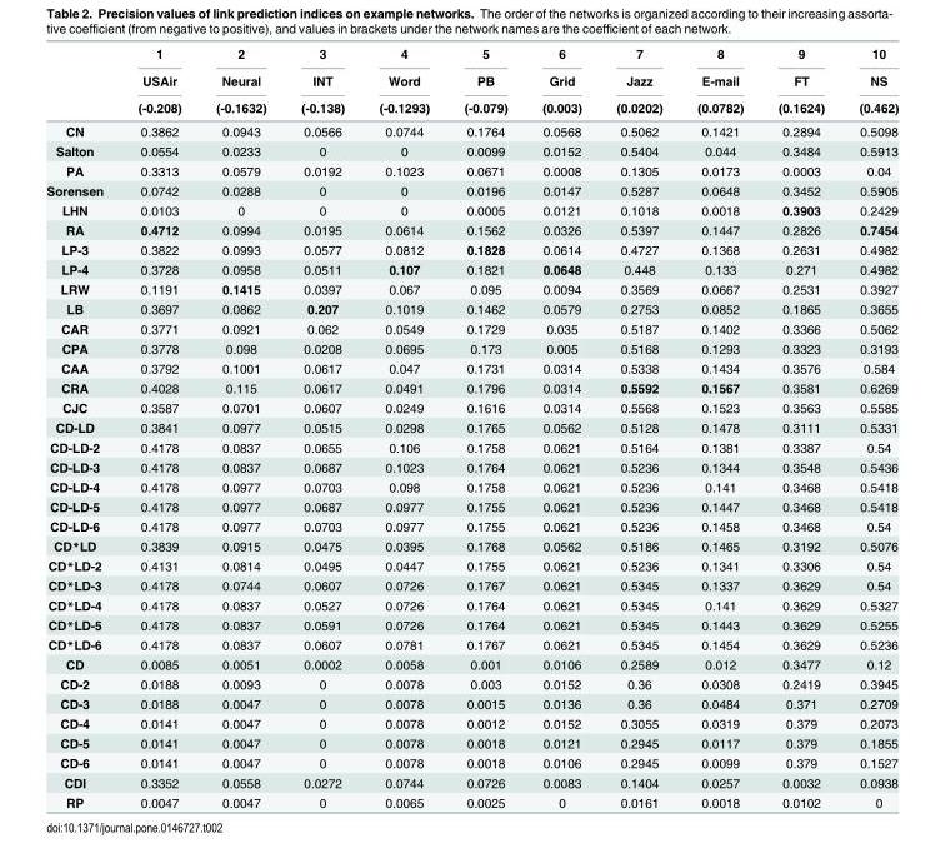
<table><thead><tr><td rowspan="3"></td><td rowspan="3">1 USAir (-0.208)</td><td rowspan="3">2 Neural (-0.1632)</td><td rowspan="3">3 INT (-0.138)</td><td rowspan="3">4 Word (-0.1293)</td><td rowspan="3">5 PB (-0.079)</td><td rowspan="3">6 Grid (0.003)</td><td rowspan="3">7 Jazz (0.0202)</td><td rowspan="3">8 E-mail (0.0782)</td><td rowspan="3">9 FT (0.1624)</td><td rowspan="3">10 NS (0.462)</td></tr><tr></tr><tr></tr></thead><tbody><tr><td>CN</td><td>0.3862</td><td>0.0943</td><td>0.0566</td><td>0.0744</td><td>0.1764</td><td>0.0568</td><td>0.5062</td><td>0.1421</td><td>0.2894</td><td>0.5098</td></tr><tr><td>Salton</td><td>0.0554</td><td>0.0233</td><td>0</td><td>0</td><td>0.0099</td><td>0.0152</td><td>0.5404</td><td>0.044</td><td>0.3484</td><td>0.5913</td></tr><tr><td>PA</td><td>0.3313</td><td>0.0579</td><td>0.0192</td><td>0.1023</td><td>0.0671</td><td>0.0008</td><td>0.1305</td><td>0.0173</td><td>0.0003</td><td>0.04</td></tr><tr><td>Sorensen</td><td>0.0742</td><td>0.0288</td><td>0</td><td>0</td><td>0.0196</td><td>0.0147</td><td>0.5287</td><td>0.0648</td><td>0.3452</td><td>0.5905</td></tr><tr><td>LHN</td><td>0.0103</td><td>0</td><td>0</td><td>0</td><td>0.0005</td><td>0.0121</td><td>0.1018</td><td>0.0018</td><td>0.3903</td><td>0.2429</td></tr><tr><td>RA</td><td>0.4712</td><td>0.0994</td><td>0.0195</td><td>0.0614</td><td>0.1562</td><td>0.0326</td><td>0.5397</td><td>0.1447</td><td>0.2826</td><td>0.7454</td></tr><tr><td>LP-3</td><td>0.3822</td><td>0.0993</td><td>0.0577</td><td>0.0812</td><td>0.1828</td><td>0.0614</td><td>0.4727</td><td>0.1368</td><td>0.2631</td><td>0.4982</td></tr><tr><td>LP-4</td><td>0.3728</td><td>0.0958</td><td>0.0511</td><td>0.107</td><td>0.1821</td><td>0.0648</td><td>0.448</td><td>0.133</td><td>0.271</td><td>0.4982</td></tr><tr><td>LRW</td><td>0.1191</td><td>0.1415</td><td>0.0397</td><td>0.067</td><td>0.095</td><td>0.0094</td><td>0.3569</td><td>0.0667</td><td>0.2531</td><td>0.3927</td></tr><tr><td>LB</td><td>0.3697</td><td>0.0862</td><td>0.207</td><td>0.1019</td><td>0.1462</td><td>0.0579</td><td>0.2753</td><td>0.0852</td><td>0.1865</td><td>0.3655</td></tr><tr><td>CAR</td><td>0.3771</td><td>0.0921</td><td>0.062</td><td>0.0549</td><td>0.1729</td><td>0.035</td><td>0.5187</td><td>0.1402</td><td>0.3366</td><td>0.5062</td></tr><tr><td>CPA</td><td>0.3778</td><td>0.098</td><td>0.0208</td><td>0.0695</td><td>0.173</td><td>0.005</td><td>0.5168</td><td>0.1293</td><td>0.3323</td><td>0.3193</td></tr><tr><td>CAA</td><td>0.3792</td><td>0.1001</td><td>0.0617</td><td>0.047</td><td>0.1731</td><td>0.0314</td><td>0.5338</td><td>0.1434</td><td>0.3576</td><td>0.584</td></tr><tr><td>CRA</td><td>0.4028</td><td>0.115</td><td>0.0617</td><td>0.0491</td><td>0.1796</td><td>0.0314</td><td>0.5592</td><td>0.1567</td><td>0.3581</td><td>0.6269</td></tr><tr><td>CJC</td><td>0.3587</td><td>0.0701</td><td>0.0607</td><td>0.0249</td><td>0.1616</td><td>0.0314</td><td>0.5568</td><td>0.1523</td><td>0.3563</td><td>0.5585</td></tr><tr><td>CD-LD</td><td>0.3841</td><td>0.0977</td><td>0.0515</td><td>0.0298</td><td>0.1765</td><td>0.0562</td><td>0.5128</td><td>0.1478</td><td>0.3111</td><td>0.5331</td></tr><tr><td>CD-LD-2</td><td>0.4178</td><td>0.0837</td><td>0.0655</td><td>0.106</td><td>0.1758</td><td>0.0621</td><td>0.5164</td><td>0.1381</td><td>0.3387</td><td>0.54</td></tr><tr><td>CD-LD-3</td><td>0.4178</td><td>0.0837</td><td>0.0687</td><td>0.1023</td><td>0.1764</td><td>0.0621</td><td>0.5236</td><td>0.1344</td><td>0.3548</td><td>0.5436</td></tr><tr><td>CD-LD-4</td><td>0.4178</td><td>0.0977</td><td>0.0703</td><td>0.098</td><td>0.1758</td><td>0.0621</td><td>0.5236</td><td>0.141</td><td>0.3468</td><td>0.5418</td></tr><tr><td>CD-LD-5</td><td>0.4178</td><td>0.0977</td><td>0.0687</td><td>0.0977</td><td>0.1755</td><td>0.0621</td><td>0.5236</td><td>0.1447</td><td>0.3468</td><td>0.5418</td></tr><tr><td>CD-LD-6</td><td>0.4178</td><td>0.0977</td><td>0.0703</td><td>0.0977</td><td>0.1755</td><td>0.0621</td><td>0.5236</td><td>0.1458</td><td>0.3468</td><td>0.54</td></tr><tr><td>CD*LD</td><td>0.3839</td><td>0.0915</td><td>0.0475</td><td>0.0395</td><td>0.1768</td><td>0.0562</td><td>0.5186</td><td>0.1465</td><td>0.3192</td><td>0.5076</td></tr><tr><td>CD*LD-2</td><td>0.4131</td><td>0.0814</td><td>0.0495</td><td>0.0447</td><td>0.1755</td><td>0.0621</td><td>0.5236</td><td>0.1341</td><td>0.3306</td><td>0.54</td></tr><tr><td>CD*LD-3</td><td>0.4178</td><td>0.0744</td><td>0.0607</td><td>0.0726</td><td>0.1767</td><td>0.0621</td><td>0.5345</td><td>0.1337</td><td>0.3629</td><td>0.54</td></tr><tr><td>CD*LD-4</td><td>0.4178</td><td>0.0837</td><td>0.0527</td><td>0.0726</td><td>0.1764</td><td>0.0621</td><td>0.5345</td><td>0.141</td><td>0.3629</td><td>0.5327</td></tr><tr><td>CD*LD-5</td><td>0.4178</td><td>0.0837</td><td>0.0591</td><td>0.0726</td><td>0.1764</td><td>0.0621</td><td>0.5345</td><td>0.1443</td><td>0.3629</td><td>0.5255</td></tr><tr><td>CD*LD-6</td><td>0.4178</td><td>0.0837</td><td>0.0607</td><td>0.0781</td><td>0.1767</td><td>0.0621</td><td>0.5345</td><td>0.1454</td><td>0.3629</td><td>0.5236</td></tr><tr><td>CD</td><td>0.0085</td><td>0.0051</td><td>0.0002</td><td>0.0058</td><td>0.001</td><td>0.0106</td><td>0.2589</td><td>0.012</td><td>0.3477</td><td>0.12</td></tr><tr><td>CD-2</td><td>0.0188</td><td>0.0093</td><td>0</td><td>0.0078</td><td>0.003</td><td>0.0152</td><td>0.36</td><td>0.0308</td><td>0.2419</td><td>0.3945</td></tr><tr><td>CD-3</td><td>0.0188</td><td>0.0047</td><td>0</td><td>0.0078</td><td>0.0015</td><td>0.0136</td><td>0.36</td><td>0.0484</td><td>0.371</td><td>0.2709</td></tr><tr><td>CD-4</td><td>0.0141</td><td>0.0047</td><td>0</td><td>0.0078</td><td>0.0012</td><td>0.0152</td><td>0.3055</td><td>0.0319</td><td>0.379</td><td>0.2073</td></tr><tr><td>CD-5</td><td>0.0141</td><td>0.0047</td><td>0</td><td>0.0078</td><td>0.0018</td><td>0.0121</td><td>0.2945</td><td>0.0117</td><td>0.379</td><td>0.1855</td></tr><tr><td>CD-6</td><td>0.0141</td><td>0.0047</td><td>0</td><td>0.0078</td><td>0.0018</td><td>0.0106</td><td>0.2945</td><td>0.0099</td><td>0.379</td><td>0.1527</td></tr><tr><td>CDI</td><td>0.3352</td><td>0.0558</td><td>0.0272</td><td>0.0744</td><td>0.0726</td><td>0.0083</td><td>0.1404</td><td>0.0257</td><td>0.0032</td><td>0.0938</td></tr><tr><td>RP</td><td>0.0047</td><td>0.0047</td><td>0</td><td>0.0065</td><td>0.0025</td><td>0</td><td>0.0161</td><td>0.0018</td><td>0.0102</td><td>0</td></tr></tbody></table>